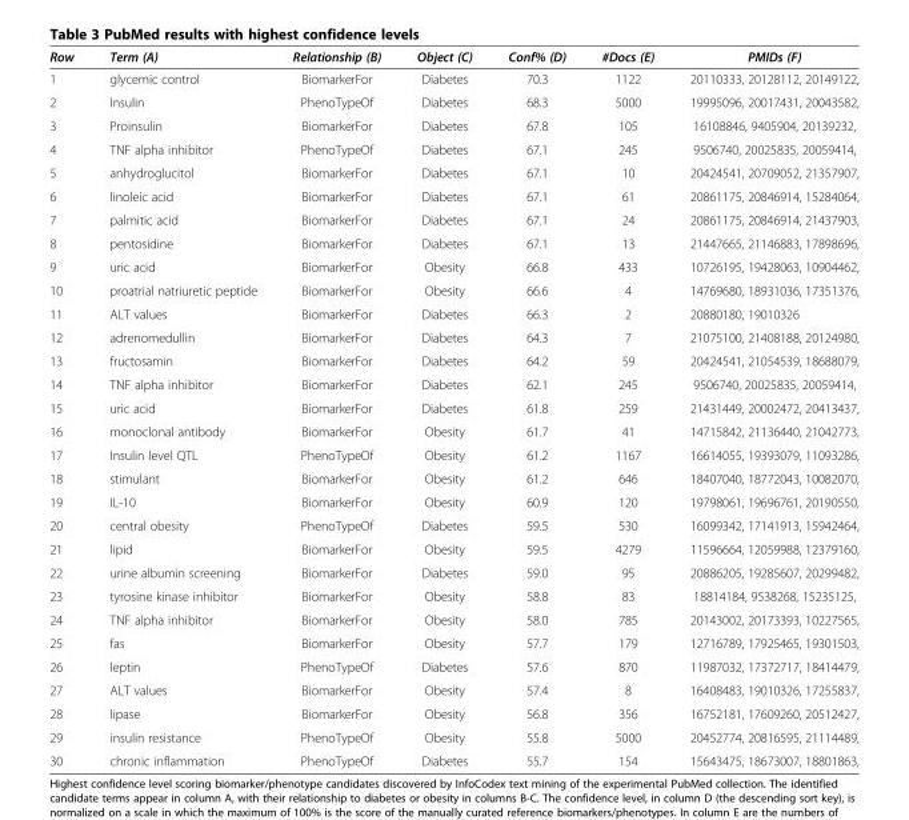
<table><thead><tr><td>Row</td><td>Term (A)</td><td>Relationship (B)</td><td>Object (C)</td><td>Conf% (D)</td><td>#Docs (E)</td><td>PMIDs (F)</td></tr></thead><tbody><tr><td>1</td><td>glycemic control</td><td>BiomarkerFor</td><td>Diabetes</td><td>70.3</td><td>1122</td><td>20110333, 20128112, 20149122,</td></tr><tr><td>2</td><td>Insulin</td><td>PhenoTypeOf</td><td>Diabetes</td><td>68.3</td><td>5000</td><td>19995096, 20017431, 20043582,</td></tr><tr><td>3</td><td>Proinsulin</td><td>BiomarkerFor</td><td>Diabetes</td><td>67.8</td><td>105</td><td>16108846, 9405904, 20139232,</td></tr><tr><td>4</td><td>TNF alpha inhibitor</td><td>PhenoTypeOf</td><td>Diabetes</td><td>67.1</td><td>245</td><td>9506740, 20025835, 20059414,</td></tr><tr><td>5</td><td>anhydroglucitol</td><td>BiomarkerFor</td><td>Diabetes</td><td>67.1</td><td>10</td><td>20424541, 20709052, 21357907,</td></tr><tr><td>6</td><td>linoleic acid</td><td>BiomarkerFor</td><td>Diabetes</td><td>67.1</td><td>61</td><td>20861175, 20846914, 15284064,</td></tr><tr><td>7</td><td>palmitic acid</td><td>BiomarkerFor</td><td>Diabetes</td><td>67.1</td><td>24</td><td>20861175, 20846914, 21437903,</td></tr><tr><td>8</td><td>pentosidine</td><td>BiomarkerFor</td><td>Diabetes</td><td>67.1</td><td>13</td><td>21447665, 21146883, 17898696,</td></tr><tr><td>9</td><td>uric acid</td><td>BiomarkerFor</td><td>Obesity</td><td>66.8</td><td>433</td><td>10726195, 19428063, 10904462,</td></tr><tr><td>10</td><td>proatrial natriuretic peptide</td><td>BiomarkerFor</td><td>Obesity</td><td>66.6</td><td>4</td><td>14769680, 18931036, 17351376,</td></tr><tr><td>11</td><td>ALT values</td><td>BiomarkerFor</td><td>Diabetes</td><td>66.3</td><td>2</td><td>20880180, 19010326</td></tr><tr><td>12</td><td>adrenomedullin</td><td>BiomarkerFor</td><td>Diabetes</td><td>64.3</td><td>7</td><td>21075100, 21408188, 20124980,</td></tr><tr><td>13</td><td>fructosamin</td><td>BiomarkerFor</td><td>Diabetes</td><td>64.2</td><td>59</td><td>20424541, 21054539, 18688079,</td></tr><tr><td>14</td><td>TNF alpha inhibitor</td><td>BiomarkerFor</td><td>Diabetes</td><td>62.1</td><td>245</td><td>9506740, 20025835, 20059414,</td></tr><tr><td>15</td><td>uric acid</td><td>BiomarkerFor</td><td>Diabetes</td><td>61.8</td><td>259</td><td>21431449, 20002472, 20413437,</td></tr><tr><td>16</td><td>monoclonal antibody</td><td>BiomarkerFor</td><td>Obesity</td><td>61.7</td><td>41</td><td>14715842, 21136440, 21042773,</td></tr><tr><td>17</td><td>Insulin level QTL</td><td>PhenoTypeOf</td><td>Obesity</td><td>61.2</td><td>1167</td><td>16614055, 19393079, 11093286,</td></tr><tr><td>18</td><td>stimulant</td><td>BiomarkerFor</td><td>Obesity</td><td>61.2</td><td>646</td><td>18407040, 18772043, 10082070,</td></tr><tr><td>19</td><td>IL-10</td><td>BiomarkerFor</td><td>Obesity</td><td>60.9</td><td>120</td><td>19798061, 19696761, 20190550,</td></tr><tr><td>20</td><td>central obesity</td><td>PhenoTypeOf</td><td>Diabetes</td><td>59.5</td><td>530</td><td>16099342, 17141913, 15942464,</td></tr><tr><td>21</td><td>lipid</td><td>BiomarkerFor</td><td>Obesity</td><td>59.5</td><td>4279</td><td>11596664, 12059988, 12379160,</td></tr><tr><td>22</td><td>urine albumin screening</td><td>BiomarkerFor</td><td>Diabetes</td><td>59.0</td><td>95</td><td>20886205, 19285607, 20299482,</td></tr><tr><td>23</td><td>tyrosine kinase inhibitor</td><td>BiomarkerFor</td><td>Obesity</td><td>58.8</td><td>83</td><td>18814184, 9538268, 15235125,</td></tr><tr><td>24</td><td>TNF alpha inhibitor</td><td>BiomarkerFor</td><td>Obesity</td><td>58.0</td><td>785</td><td>20143002, 20173393, 10227565,</td></tr><tr><td>25</td><td>fas</td><td>BiomarkerFor</td><td>Obesity</td><td>57.7</td><td>179</td><td>12716789, 17925465, 19301503,</td></tr><tr><td>26</td><td>leptin</td><td>PhenoTypeOf</td><td>Diabetes</td><td>57.6</td><td>870</td><td>11987032, 17372717, 18414479,</td></tr><tr><td>27</td><td>ALT values</td><td>BiomarkerFor</td><td>Obesity</td><td>57.4</td><td>8</td><td>16408483, 19010326, 17255837,</td></tr><tr><td>28</td><td>lipase</td><td>BiomarkerFor</td><td>Obesity</td><td>56.8</td><td>356</td><td>16752181, 17609260, 20512427,</td></tr><tr><td>29</td><td>insulin resistance</td><td>PhenoTypeOf</td><td>Obesity</td><td>55.8</td><td>5000</td><td>20452774, 20816595, 21114489,</td></tr><tr><td>30</td><td>chronic inflammation</td><td>PhenoTypeOf</td><td>Diabetes</td><td>55.7</td><td>154</td><td>15643475, 18673007, 18801863,</td></tr></tbody></table>